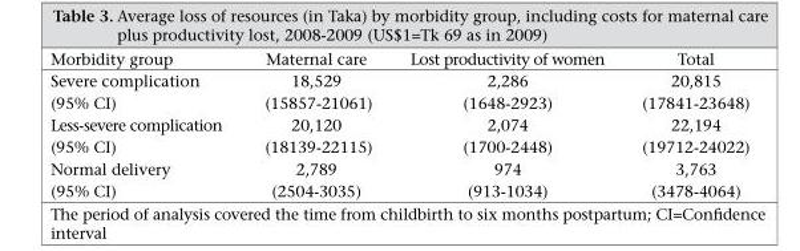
<table><thead><tr><td>Morbidity group</td><td>Maternal care</td><td>Lost productivity of women</td><td>Total</td></tr></thead><tbody><tr><td>Severe complication</td><td>18,529</td><td>2,286</td><td>20,815</td></tr><tr><td>(95% CI)</td><td>(15857-21061)</td><td>(1648-2923)</td><td>(17841-23648)</td></tr><tr><td>Less-severe complication</td><td>20,120</td><td>2,074</td><td>22,194</td></tr><tr><td>(95% CI)</td><td>(18139-22115)</td><td>(1700-2448)</td><td>(19712-24022)</td></tr><tr><td>Normal delivery</td><td>2,789</td><td>974</td><td>3,763</td></tr><tr><td>(95% CI)</td><td>(2504-3035)</td><td>(913-1034)</td><td>(3478-4064)</td></tr></tbody></table>